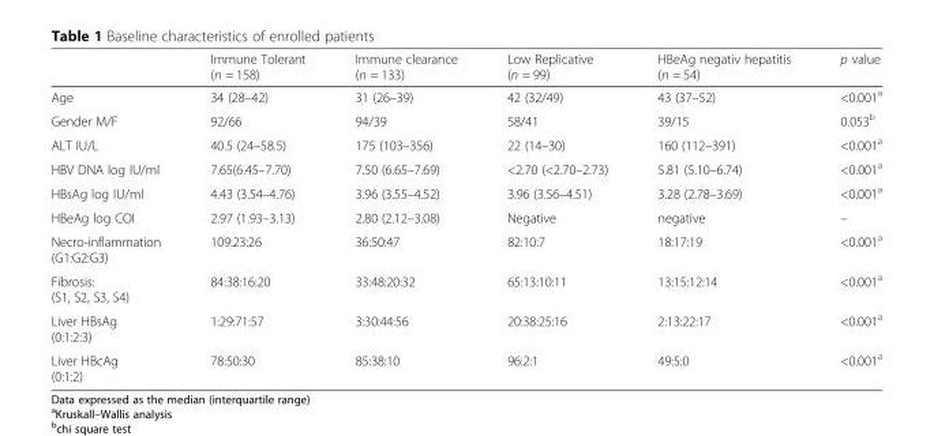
<table><thead><tr><td></td><td>Immune Tolerant (n = 158)</td><td>Immune clearance (n = 133)</td><td>Low Replicative (n = 99)</td><td>HBeAg negativ hepatitis (n = 54)</td><td>p value</td></tr></thead><tbody><tr><td>Age</td><td>34 (28–42)</td><td>31 (26–39)</td><td>42 (32/49)</td><td>43 (37–52)</td><td>&lt;0.001<sup>a</sup></td></tr><tr><td>Gender M/F</td><td>92/66</td><td>94/39</td><td>58/41</td><td>39/15</td><td>0.053<sup>b</sup></td></tr><tr><td>ALT IU/L</td><td>40.5 (24–58.5)</td><td>175 (103–356)</td><td>22 (14–30)</td><td>160 (112–391)</td><td>&lt;0.001<sup>a</sup></td></tr><tr><td>HBV DNA log IU/ml</td><td>7.65(6.45–7.70)</td><td>7.50 (6.65–7.69)</td><td>&lt;2.70 (&lt;2.70–2.73)</td><td>5.81 (5.10–6.74)</td><td>&lt;0.001<sup>a</sup></td></tr><tr><td>HBsAg log IU/ml</td><td>4.43 (3.54–4.76)</td><td>3.96 (3.55–4.52)</td><td>3.96 (3.56–4.51)</td><td>3.28 (2.78–3.69)</td><td>&lt;0.001<sup>a</sup></td></tr><tr><td>HBeAg log COI</td><td>2.97 (1.93–3.13)</td><td>2.80 (2.12–3.08)</td><td>Negative</td><td>negative</td><td>–</td></tr><tr><td>Necro-inflammation (G1:G2:G3)</td><td>109:23:26</td><td>36:50:47</td><td>82:10:7</td><td>18:17:19</td><td>&lt;0.001<sup>a</sup></td></tr><tr><td>Fibrosis: (S1, S2, S3, S4)</td><td>84:38:16:20</td><td>33:48:20:32</td><td>65:13:10:11</td><td>13:15:12:14</td><td>&lt;0.001<sup>a</sup></td></tr><tr><td>Liver HBsAg (0:1:2:3)</td><td>1:29:71:57</td><td>3:30:44:56</td><td>20:38:25:16</td><td>2:13:22:17</td><td>&lt;0.001<sup>a</sup></td></tr><tr><td>Liver HBcAg (0:1:2)</td><td>78:50:30</td><td>85:38:10</td><td>96:2:1</td><td>49:5:0</td><td>&lt;0.001<sup>a</sup></td></tr></tbody></table>